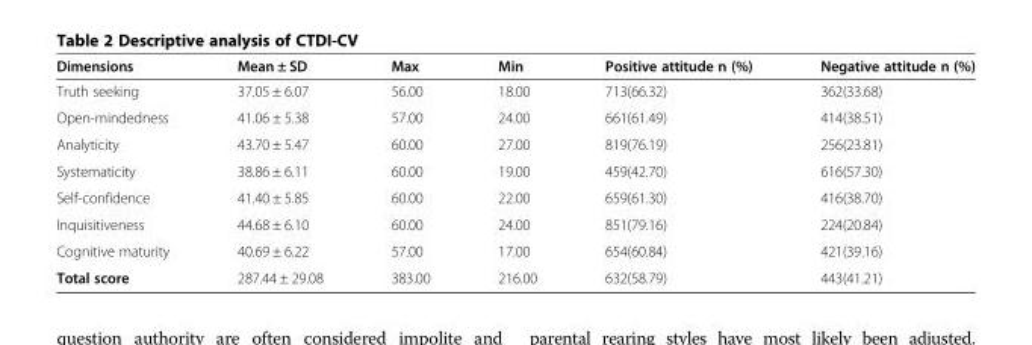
<table><thead><tr><td>Dimensions</td><td>Mean ± SD</td><td>Max</td><td>Min</td><td>Positive attitude n (%)</td><td>Negative attitude n (%)</td></tr></thead><tbody><tr><td>Truth seeking</td><td>37.05 ± 6.07</td><td>56.00</td><td>18.00</td><td>713(66.32)</td><td>362(33.68)</td></tr><tr><td>Open-mindedness</td><td>41.06 ± 5.38</td><td>57.00</td><td>24.00</td><td>661(61.49)</td><td>414(38.51)</td></tr><tr><td>Analyticity</td><td>43.70 ± 5.47</td><td>60.00</td><td>27.00</td><td>819(76.19)</td><td>256(23.81)</td></tr><tr><td>Systematicity</td><td>38.86 ± 6.11</td><td>60.00</td><td>19.00</td><td>459(42.70)</td><td>616(57.30)</td></tr><tr><td>Self-confidence</td><td>41.40 ± 5.85</td><td>60.00</td><td>22.00</td><td>659(61.30)</td><td>416(38.70)</td></tr><tr><td>Inquisitiveness</td><td>44.68 ± 6.10</td><td>60.00</td><td>24.00</td><td>851(79.16)</td><td>224(20.84)</td></tr><tr><td>Cognitive maturity</td><td>40.69 ± 6.22</td><td>57.00</td><td>17.00</td><td>654(60.84)</td><td>421(39.16)</td></tr><tr><td>Total score</td><td>287.44 ± 29.08</td><td>383.00</td><td>216.00</td><td>632(58.79)</td><td>443(41.21)</td></tr></tbody></table>